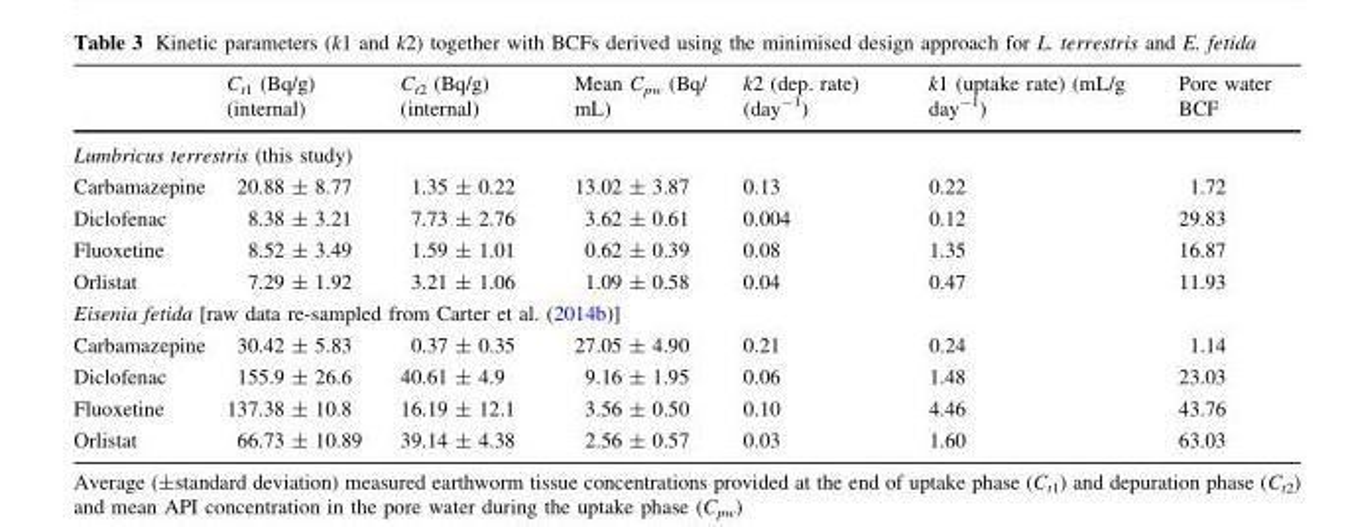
<table><thead><tr><td></td><td>C<sub>t1</sub> (Bq/g) (internal)</td><td>C<sub>t2</sub> (Bq/g) (internal)</td><td>Mean C<sub>pw</sub> (Bq/ mL)</td><td>k2 (dep. rate) (day<sup>-1</sup>)</td><td>k1 (uptake rate) (mL/g day<sup>-1</sup>)</td><td>Pore water BCF</td></tr></thead><tbody><tr><td colspan="7">Lumbricus terrestris (this study)</td></tr><tr><td>Carbamazepine</td><td>20.88 ± 8.77</td><td>1.35 ± 0.22</td><td>13.02 ± 3.87</td><td>0.13</td><td>0.22</td><td>1.72</td></tr><tr><td>Diclofenac</td><td>8.38 ± 3.21</td><td>7.73 ± 2.76</td><td>3.62 ± 0.61</td><td>0.004</td><td>0.12</td><td>29.83</td></tr><tr><td>Fluoxetine</td><td>8.52 ± 3.49</td><td>1.59 ± 1.01</td><td>0.62 ± 0.39</td><td>0.08</td><td>1.35</td><td>16.87</td></tr><tr><td>Orlistat</td><td>7.29 ± 1.92</td><td>3.21 ± 1.06</td><td>1.09 ± 0.58</td><td>0.04</td><td>0.47</td><td>11.93</td></tr><tr><td colspan="7">Eisenia fetida [raw data re-sampled from Carter et al. (2014b)]</td></tr><tr><td>Carbamazepine</td><td>30.42 ± 5.83</td><td>0.37 ± 0.35</td><td>27.05 ± 4.90</td><td>0.21</td><td>0.24</td><td>1.14</td></tr><tr><td>Diclofenac</td><td>155.9 ± 26.6</td><td>40.61 ± 4.9</td><td>9.16 ± 1.95</td><td>0.06</td><td>1.48</td><td>23.03</td></tr><tr><td>Fluoxetine</td><td>137.38 ± 10.8</td><td>16.19 ± 12.1</td><td>3.56 ± 0.50</td><td>0.10</td><td>4.46</td><td>43.76</td></tr><tr><td>Orlistat</td><td>66.73 ± 10.89</td><td>39.14 ± 4.38</td><td>2.56 ± 0.57</td><td>0.03</td><td>1.60</td><td>63.03</td></tr></tbody></table>